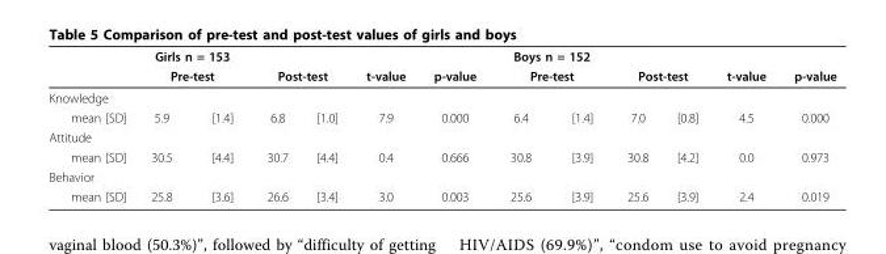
<table><thead><tr><td rowspan="3">Knowledge</td><td rowspan="2" colspan="2">Girls n = 153 Pre-test</td><td></td><td></td><td rowspan="3">t-value</td><td rowspan="3">p-value</td><td rowspan="2" colspan="2">Boys n = 152 Pre-test</td><td></td><td></td><td rowspan="3">t-value</td><td rowspan="3">p-value</td></tr><tr><td colspan="2">Post-test</td><td colspan="2">Post-test</td></tr><tr><td></td><td></td><td></td><td></td><td></td><td></td><td></td><td></td></tr></thead><tbody><tr><td>mean [SD]</td><td>5.9</td><td>[1.4]</td><td>6.8</td><td>[1.0]</td><td>7.9</td><td>0.000</td><td>6.4</td><td>[1.4]</td><td>7.0</td><td>[0.8]</td><td>4.5</td><td>0.000</td></tr><tr><td colspan="13">Attitude</td></tr><tr><td>mean [SD]</td><td>30.5</td><td>[4.4]</td><td>30.7</td><td>[4.4]</td><td>0.4</td><td>0.666</td><td>30.8</td><td>[3.9]</td><td>30.8</td><td>[4.2]</td><td>0.0</td><td>0.973</td></tr><tr><td colspan="13">Behavior</td></tr><tr><td>mean [SD]</td><td>25.8</td><td>[3.6]</td><td>26.6</td><td>[3.4]</td><td>3.0</td><td>0.003</td><td>25.6</td><td>[3.9]</td><td>25.6</td><td>[3.9]</td><td>2.4</td><td>0.019</td></tr></tbody></table>